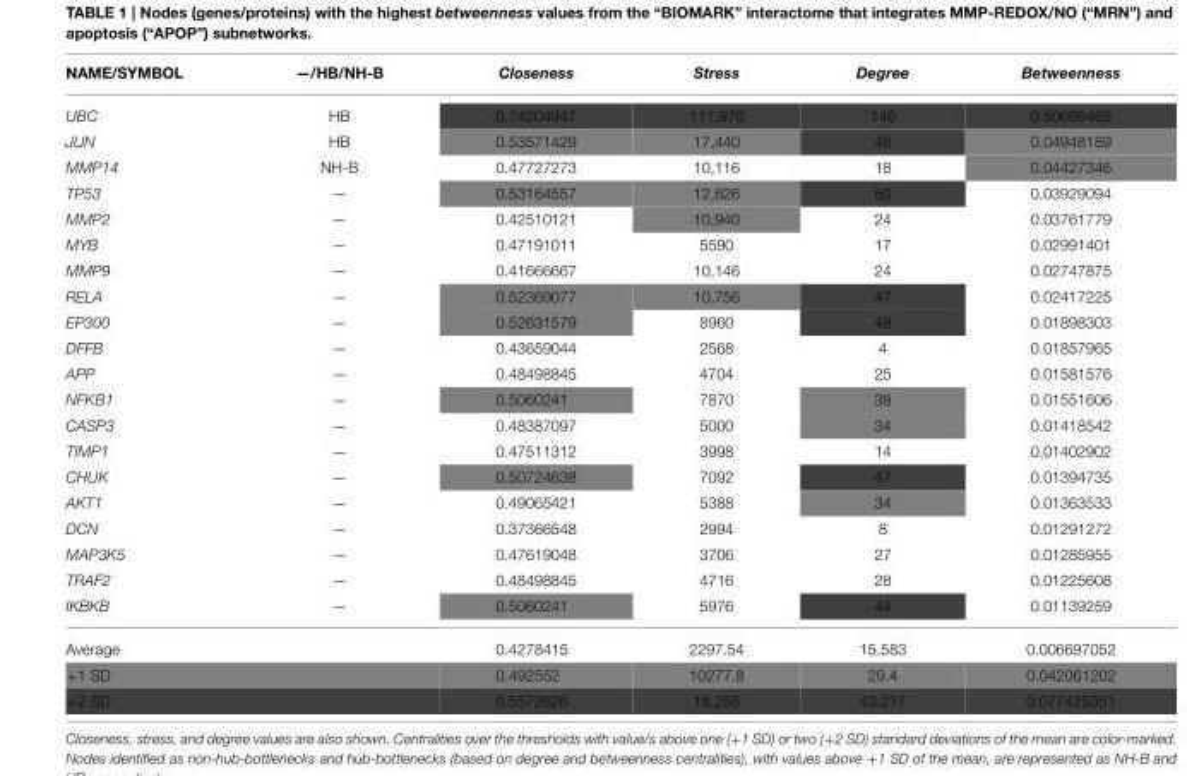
<table><thead><tr><td>NAME/SYMBOL</td><td>—/HB/NH-B</td><td>Closeness</td><td>Stress</td><td>Degree</td><td>Betweenness</td></tr></thead><tbody><tr><td>UBC</td><td>HB</td><td>0.74204947</td><td>111,970</td><td>146</td><td>0.50695465</td></tr><tr><td>JUN</td><td>HB</td><td>0.53571429</td><td>17,440</td><td>45</td><td>0.04948189</td></tr><tr><td>MMP14</td><td>NH-B</td><td>0.47727273</td><td>10,116</td><td>18</td><td>0.04427346</td></tr><tr><td>TP53</td><td>—</td><td>0.53164557</td><td>12,626</td><td>50</td><td>0.03929094</td></tr><tr><td>MMP2</td><td>—</td><td>0.42510121</td><td>10,940</td><td>24</td><td>0.03761779</td></tr><tr><td>MYB</td><td>—</td><td>0.47191011</td><td>5590</td><td>17</td><td>0.02991401</td></tr><tr><td>MMP9</td><td>—</td><td>0.41666667</td><td>10,146</td><td>24</td><td>0.02747875</td></tr><tr><td>RELA</td><td>—</td><td>0.52369077</td><td>10,756</td><td>47</td><td>0.02417225</td></tr><tr><td>EP300</td><td>—</td><td>0.52631579</td><td>8960</td><td>48</td><td>0.01898303</td></tr><tr><td>DFFB</td><td>—</td><td>0.43659044</td><td>2568</td><td>4</td><td>0.01857965</td></tr><tr><td>APP</td><td>—</td><td>0.48498845</td><td>4704</td><td>25</td><td>0.01581576</td></tr><tr><td>NFKB1</td><td>—</td><td>0.5060241</td><td>7870</td><td>38</td><td>0.01551606</td></tr><tr><td>CASP3</td><td>—</td><td>0.48387097</td><td>5000</td><td>34</td><td>0.01418542</td></tr><tr><td>TIMP1</td><td>—</td><td>0.47511312</td><td>3998</td><td>14</td><td>0.01402902</td></tr><tr><td>CHUK</td><td>—</td><td>0.50724638</td><td>7092</td><td>47</td><td>0.01394735</td></tr><tr><td>AKT1</td><td>—</td><td>0.49065421</td><td>5388</td><td>34</td><td>0.01363533</td></tr><tr><td>DCN</td><td>—</td><td>0.37366548</td><td>2994</td><td>8</td><td>0.01291272</td></tr><tr><td>MAP3K5</td><td>—</td><td>0.47619048</td><td>3706</td><td>27</td><td>0.01285955</td></tr><tr><td>TRAF2</td><td>—</td><td>0.48498845</td><td>4716</td><td>28</td><td>0.01225608</td></tr><tr><td>IKBKB</td><td>—</td><td>0.5060241</td><td>5976</td><td>44</td><td>0.01139259</td></tr><tr><td colspan="2">Average</td><td>0.4278415</td><td>2297.54</td><td>15.583</td><td>0.006697052</td></tr><tr><td colspan="2">+1 SD</td><td>0.492552</td><td>10277.8</td><td>29.4</td><td>0.042061202</td></tr><tr><td colspan="2">+2 SD</td><td>0.5572626</td><td>18,258</td><td>43.217</td><td>0.077425351</td></tr></tbody></table>